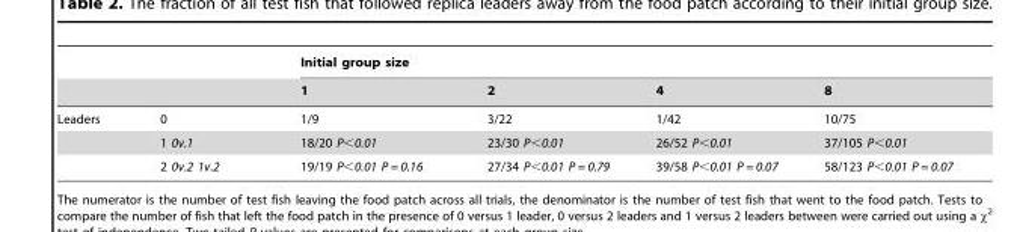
<table><thead><tr><td rowspan="2"></td><td rowspan="2"></td><td colspan="4">Initial group size</td></tr><tr><td>1</td><td>2</td><td>4</td><td>8</td></tr></thead><tbody><tr><td rowspan="3">Leaders</td><td>0</td><td>1/9</td><td>3/22</td><td>1/42</td><td>10/75</td></tr><tr><td>1 0v.1</td><td>18/20 P&lt;0.01</td><td>23/30 P&lt;0.01</td><td>26/52 P&lt;0.01</td><td>37/105 P&lt;0.01</td></tr><tr><td>2 0v.2 1v.2</td><td>19/19 P&lt;0.01 P = 0.16</td><td>27/34 P&lt;0.01 P = 0.79</td><td>39/58 P&lt;0.01 P = 0.07</td><td>58/123 P&lt;0.01 P = 0.07</td></tr></tbody></table>